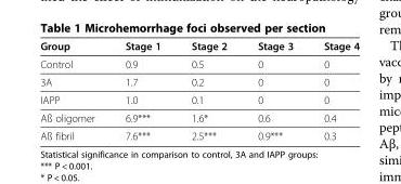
<table><thead><tr><td>Group</td><td>Stage 1</td><td>Stage 2</td><td>Stage 3</td><td>Stage 4</td></tr></thead><tbody><tr><td>Control</td><td>0.9</td><td>0.5</td><td>0</td><td>0</td></tr><tr><td>3A</td><td>1.7</td><td>0.2</td><td>0</td><td>0</td></tr><tr><td>IAPP</td><td>1.0</td><td>0.1</td><td>0</td><td>0</td></tr><tr><td>Aß oligomer</td><td>6.9***</td><td>1.6*</td><td>0.6</td><td>0.4</td></tr><tr><td>Aß fibril</td><td>7.6***</td><td>2.5***</td><td>0.9***</td><td>0.3</td></tr></tbody></table>